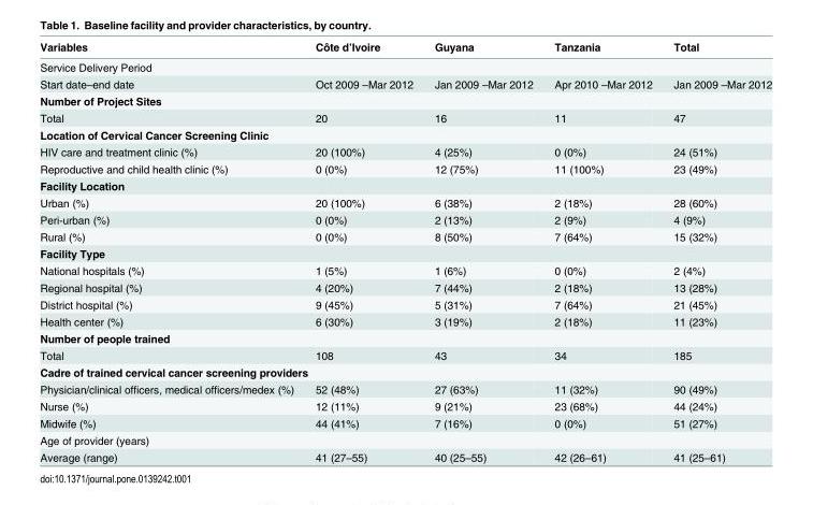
<table><thead><tr><td>Variables</td><td>Côte d’Ivoire</td><td>Guyana</td><td>Tanzania</td><td>Total</td></tr></thead><tbody><tr><td colspan="5">Service Delivery Period</td></tr><tr><td>Start date–end date</td><td>Oct 2009 –Mar 2012</td><td>Jan 2009 –Mar 2012</td><td>Apr 2010 –Mar 2012</td><td>Jan 2009 –Mar 2012</td></tr><tr><td colspan="5">Number of Project Sites</td></tr><tr><td>Total</td><td>20</td><td>16</td><td>11</td><td>47</td></tr><tr><td colspan="5">Location of Cervical Cancer Screening Clinic</td></tr><tr><td>HIV care and treatment clinic (%)</td><td>20 (100%)</td><td>4 (25%)</td><td>0 (0%)</td><td>24 (51%)</td></tr><tr><td>Reproductive and child health clinic (%)</td><td>0 (0%)</td><td>12 (75%)</td><td>11 (100%)</td><td>23 (49%)</td></tr><tr><td colspan="5">Facility Location</td></tr><tr><td>Urban (%)</td><td>20 (100%)</td><td>6 (38%)</td><td>2 (18%)</td><td>28 (60%)</td></tr><tr><td>Peri-urban (%)</td><td>0 (0%)</td><td>2 (13%)</td><td>2 (9%)</td><td>4 (9%)</td></tr><tr><td>Rural (%)</td><td>0 (0%)</td><td>8 (50%)</td><td>7 (64%)</td><td>15 (32%)</td></tr><tr><td colspan="5">Facility Type</td></tr><tr><td>National hospitals (%)</td><td>1 (5%)</td><td>1 (6%)</td><td>0 (0%)</td><td>2 (4%)</td></tr><tr><td>Regional hospital (%)</td><td>4 (20%)</td><td>7 (44%)</td><td>2 (18%)</td><td>13 (28%)</td></tr><tr><td>District hospital (%)</td><td>9 (45%)</td><td>5 (31%)</td><td>7 (64%)</td><td>21 (45%)</td></tr><tr><td>Health center (%)</td><td>6 (30%)</td><td>3 (19%)</td><td>2 (18%)</td><td>11 (23%)</td></tr><tr><td colspan="5">Number of people trained</td></tr><tr><td>Total</td><td>108</td><td>43</td><td>34</td><td>185</td></tr><tr><td colspan="5">Cadre of trained cervical cancer screening providers</td></tr><tr><td>Physician/clinical officers, medical officers/medex (%)</td><td>52 (48%)</td><td>27 (63%)</td><td>11 (32%)</td><td>90 (49%)</td></tr><tr><td>Nurse (%)</td><td>12 (11%)</td><td>9 (21%)</td><td>23 (68%)</td><td>44 (24%)</td></tr><tr><td>Midwife (%)</td><td>44 (41%)</td><td>7 (16%)</td><td>0 (0%)</td><td>51 (27%)</td></tr><tr><td colspan="5">Age of provider (years)</td></tr><tr><td>Average (range)</td><td>41 (27–55)</td><td>40 (25–55)</td><td>42 (26–61)</td><td>41 (25–61)</td></tr></tbody></table>